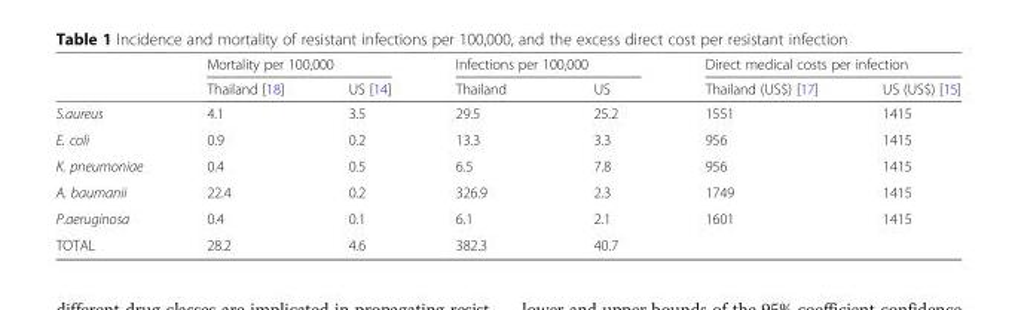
<table><thead><tr><td rowspan="2"></td><td colspan="2">Mortality per 100,000</td><td colspan="2">Infections per 100,000</td><td colspan="2">Direct medical costs per infection</td></tr><tr><td>Thailand [18]</td><td>US [14]</td><td>Thailand</td><td>US</td><td>Thailand (US$) [17]</td><td>US (US$) [15]</td></tr></thead><tbody><tr><td>S.aureus</td><td>4.1</td><td>3.5</td><td>29.5</td><td>25.2</td><td>1551</td><td>1415</td></tr><tr><td>E. coli</td><td>0.9</td><td>0.2</td><td>13.3</td><td>3.3</td><td>956</td><td>1415</td></tr><tr><td>K. pneumoniae</td><td>0.4</td><td>0.5</td><td>6.5</td><td>7.8</td><td>956</td><td>1415</td></tr><tr><td>A. baumanii</td><td>22.4</td><td>0.2</td><td>326.9</td><td>2.3</td><td>1749</td><td>1415</td></tr><tr><td>P.aeruginosa</td><td>0.4</td><td>0.1</td><td>6.1</td><td>2.1</td><td>1601</td><td>1415</td></tr><tr><td>TOTAL</td><td>28.2</td><td>4.6</td><td>382.3</td><td>40.7</td><td></td><td></td></tr></tbody></table>